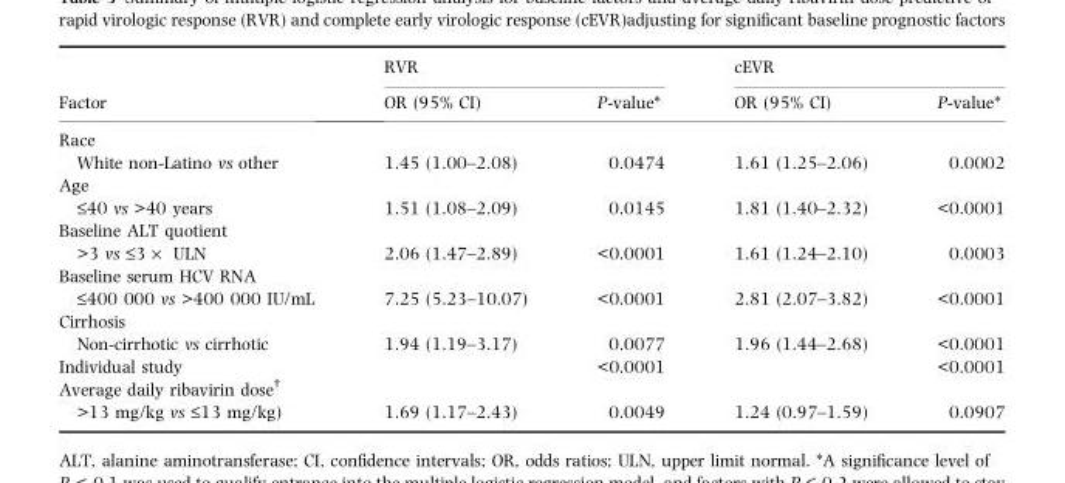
<table><thead><tr><td rowspan="2">Factor</td><td colspan="2">RVR</td><td colspan="2">cEVR</td></tr><tr><td>OR (95% CI)</td><td>P-value*</td><td>OR (95% CI)</td><td>P-value*</td></tr></thead><tbody><tr><td colspan="5">Race</td></tr><tr><td>White non-Latino vs other</td><td>1.45 (1.00–2.08)</td><td>0.0474</td><td>1.61 (1.25–2.06)</td><td>0.0002</td></tr><tr><td colspan="5">Age</td></tr><tr><td>≤40 vs &gt;40 years</td><td>1.51 (1.08–2.09)</td><td>0.0145</td><td>1.81 (1.40–2.32)</td><td>&lt;0.0001</td></tr><tr><td colspan="5">Baseline ALT quotient</td></tr><tr><td>&gt;3 vs ≤3 × ULN</td><td>2.06 (1.47–2.89)</td><td>&lt;0.0001</td><td>1.61 (1.24–2.10)</td><td>0.0003</td></tr><tr><td colspan="5">Baseline serum HCV RNA</td></tr><tr><td>≤400 000 vs &gt;400 000 IU/mL</td><td>7.25 (5.23–10.07)</td><td>&lt;0.0001</td><td>2.81 (2.07–3.82)</td><td>&lt;0.0001</td></tr><tr><td colspan="5">Cirrhosis</td></tr><tr><td>Non-cirrhotic vs cirrhotic</td><td>1.94 (1.19–3.17)</td><td>0.0077</td><td>1.96 (1.44–2.68)</td><td>&lt;0.0001</td></tr><tr><td>Individual study</td><td></td><td>&lt;0.0001</td><td></td><td>&lt;0.0001</td></tr><tr><td colspan="5">Average daily ribavirin dose†</td></tr><tr><td>&gt;13 mg/kg vs ≤13 mg/kg)</td><td>1.69 (1.17–2.43)</td><td>0.0049</td><td>1.24 (0.97–1.59)</td><td>0.0907</td></tr></tbody></table>